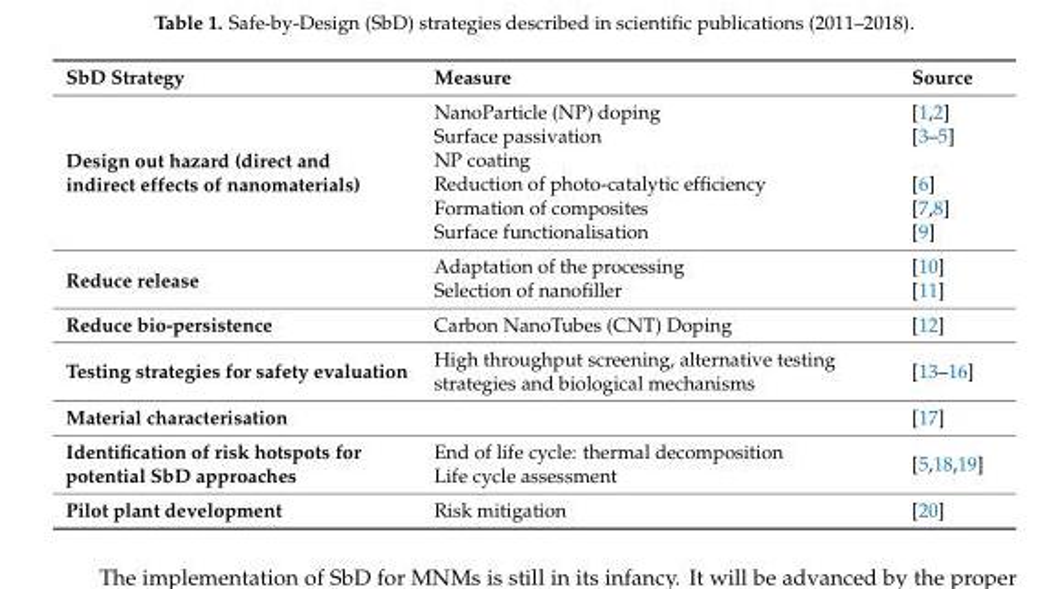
<table><thead><tr><td>SbD Strategy</td><td>Measure</td><td>Source</td></tr></thead><tbody><tr><td rowspan="6">Design out hazard (direct and indirect effects of nanomaterials)</td><td>NanoParticle (NP) doping</td><td>[1,2]</td></tr><tr><td>Surface passivation</td><td>[3–5]</td></tr><tr><td>NP coating</td><td></td></tr><tr><td>Reduction of photo-catalytic efficiency</td><td>[6]</td></tr><tr><td>Formation of composites</td><td>[7,8]</td></tr><tr><td>Surface functionalisation</td><td>[9]</td></tr><tr><td rowspan="2">Reduce release</td><td>Adaptation of the processing</td><td>[10]</td></tr><tr><td>Selection of nanofiller</td><td>[11]</td></tr><tr><td>Reduce bio-persistence</td><td>Carbon NanoTubes (CNT) Doping</td><td>[12]</td></tr><tr><td>Testing strategies for safety evaluation</td><td>High throughput screening, alternative testing strategies and biological mechanisms</td><td>[13–16]</td></tr><tr><td>Material characterisation</td><td></td><td>[17]</td></tr><tr><td>Identification of risk hotspots for potential SbD approaches</td><td>End of life cycle: thermal decomposition Life cycle assessment</td><td>[5,18,19]</td></tr><tr><td>Pilot plant development</td><td>Risk mitigation</td><td>[20]</td></tr></tbody></table>